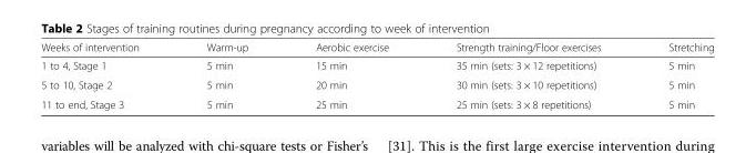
<table><thead><tr><td>Weeks of intervention</td><td>Warm-up</td><td>Aerobic exercise</td><td>Strength training/Floor exercises</td><td>Stretching</td></tr></thead><tbody><tr><td>1 to 4, Stage 1</td><td>5 min</td><td>15 min</td><td>35 min (sets: 3 × 12 repetitions)</td><td>5 min</td></tr><tr><td>5 to 10, Stage 2</td><td>5 min</td><td>20 min</td><td>30 min (sets: 3 × 10 repetitions)</td><td>5 min</td></tr><tr><td>11 to end, Stage 3</td><td>5 min</td><td>25 min</td><td>25 min (sets: 3 × 8 repetitions)</td><td>5 min</td></tr></tbody></table>